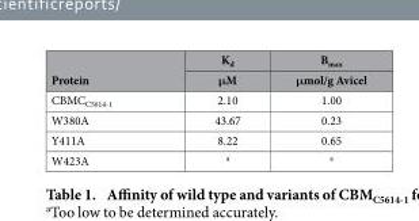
<table><thead><tr><td rowspan="2">Protein</td><td rowspan="2">K<sub>d</sub> μM</td><td rowspan="2">B<sub>max</sub> μmol/g Avicel</td></tr><tr></tr></thead><tbody><tr><td>CBMC<sub>C5614-1</sub></td><td>2.10</td><td>1.00</td></tr><tr><td>W380A</td><td>43.67</td><td>0.23</td></tr><tr><td>Y411A</td><td>8.22</td><td>0.65</td></tr><tr><td>W423A</td><td>a</td><td>a</td></tr></tbody></table>